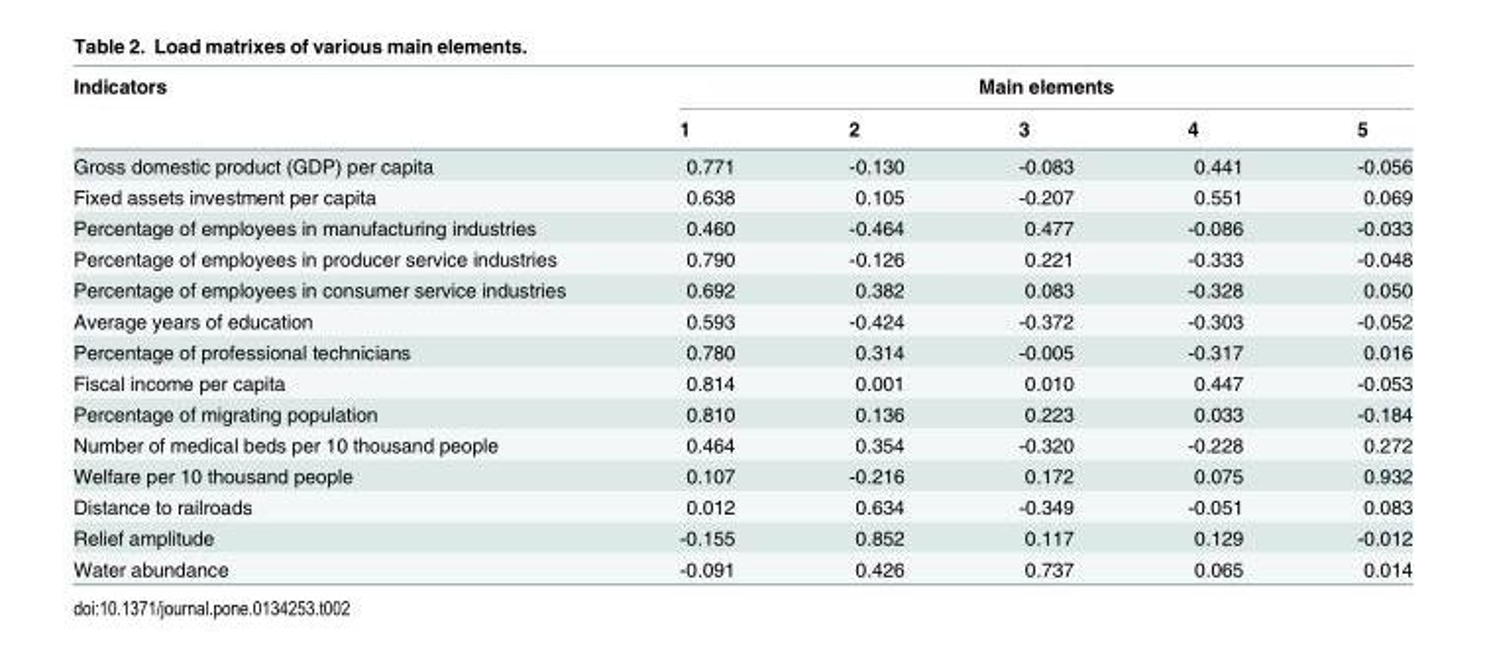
<table><thead><tr><td rowspan="2">Indicators</td><td colspan="5">Main elements</td></tr><tr><td>1</td><td>2</td><td>3</td><td>4</td><td>5</td></tr></thead><tbody><tr><td>Gross domestic product (GDP) per capita</td><td>0.771</td><td>-0.130</td><td>-0.083</td><td>0.441</td><td>-0.056</td></tr><tr><td>Fixed assets investment per capita</td><td>0.638</td><td>0.105</td><td>-0.207</td><td>0.551</td><td>0.069</td></tr><tr><td>Percentage of employees in manufacturing industries</td><td>0.460</td><td>-0.464</td><td>0.477</td><td>-0.086</td><td>-0.033</td></tr><tr><td>Percentage of employees in producer service industries</td><td>0.790</td><td>-0.126</td><td>0.221</td><td>-0.333</td><td>-0.048</td></tr><tr><td>Percentage of employees in consumer service industries</td><td>0.692</td><td>0.382</td><td>0.083</td><td>-0.328</td><td>0.050</td></tr><tr><td>Average years of education</td><td>0.593</td><td>-0.424</td><td>-0.372</td><td>-0.303</td><td>-0.052</td></tr><tr><td>Percentage of professional technicians</td><td>0.780</td><td>0.314</td><td>-0.005</td><td>-0.317</td><td>0.016</td></tr><tr><td>Fiscal income per capita</td><td>0.814</td><td>0.001</td><td>0.010</td><td>0.447</td><td>-0.053</td></tr><tr><td>Percentage of migrating population</td><td>0.810</td><td>0.136</td><td>0.223</td><td>0.033</td><td>-0.184</td></tr><tr><td>Number of medical beds per 10 thousand people</td><td>0.464</td><td>0.354</td><td>-0.320</td><td>-0.228</td><td>0.272</td></tr><tr><td>Welfare per 10 thousand people</td><td>0.107</td><td>-0.216</td><td>0.172</td><td>0.075</td><td>0.932</td></tr><tr><td>Distance to railroads</td><td>0.012</td><td>0.634</td><td>-0.349</td><td>-0.051</td><td>0.083</td></tr><tr><td>Relief amplitude</td><td>-0.155</td><td>0.852</td><td>0.117</td><td>0.129</td><td>-0.012</td></tr><tr><td>Water abundance</td><td>-0.091</td><td>0.426</td><td>0.737</td><td>0.065</td><td>0.014</td></tr></tbody></table>